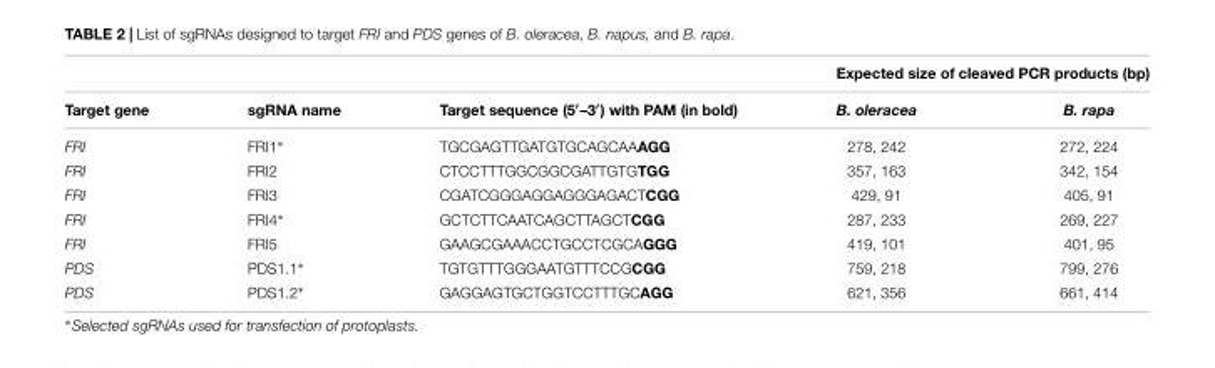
<table><thead><tr><td rowspan="2">Target gene</td><td rowspan="2">sgRNA name</td><td rowspan="2">Target sequence (5′–3′) with PAM (in bold)</td><td colspan="2">Expected size of cleaved PCR products (bp)</td></tr><tr><td>B. oleracea</td><td>B. rapa</td></tr></thead><tbody><tr><td>FRI</td><td>FRI1∗</td><td>TGCGAGTTGATGTGCAGCAAAGG</td><td>278, 242</td><td>272, 224</td></tr><tr><td>FRI</td><td>FRI2</td><td>CTCCTTTGGCGGCGATTGTGTGG</td><td>357, 163</td><td>342, 154</td></tr><tr><td>FRI</td><td>FRI3</td><td>CGATCGGGAGGAGGGAGACTCGG</td><td>429, 91</td><td>405, 91</td></tr><tr><td>FRI</td><td>FRI4∗</td><td>GCTCTTCAATCAGCTTAGCTCGG</td><td>287, 233</td><td>269, 227</td></tr><tr><td>FRI</td><td>FRI5</td><td>GAAGCGAAACCTGCCTCGCAGGG</td><td>419, 101</td><td>401, 95</td></tr><tr><td>PDS</td><td>PDS1.1∗</td><td>TGTGTTTGGGAATGTTTCCGCGG</td><td>759, 218</td><td>799, 276</td></tr><tr><td>PDS</td><td>PDS1.2∗</td><td>GAGGAGTGCTGGTCCTTTGCAGG</td><td>621, 356</td><td>661, 414</td></tr></tbody></table>